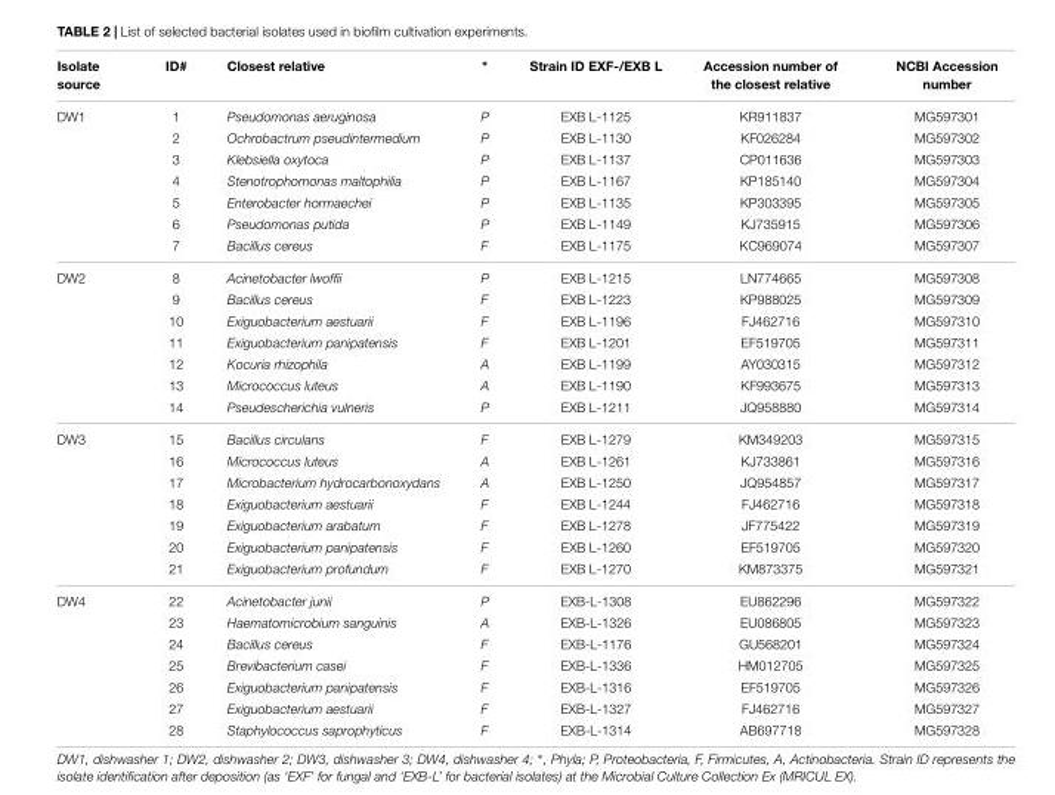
<table><thead><tr><td>Isolate source</td><td>ID#</td><td>Closest relative</td><td>∗</td><td>Strain ID EXF-/EXB L</td><td>Accession number of the closest relative</td><td>NCBI Accession number</td></tr></thead><tbody><tr><td rowspan="7">DW1</td><td>1</td><td>Pseudomonas aeruginosa</td><td>P</td><td>EXB L-1125</td><td>KR911837</td><td>MG597301</td></tr><tr><td>2</td><td>Ochrobactrum pseudintermedium</td><td>P</td><td>EXB L-1130</td><td>KF026284</td><td>MG597302</td></tr><tr><td>3</td><td>Klebsiella oxytoca</td><td>P</td><td>EXB L-1137</td><td>CP011636</td><td>MG597303</td></tr><tr><td>4</td><td>Stenotrophomonas maltophilia</td><td>P</td><td>EXB L-1167</td><td>KP185140</td><td>MG597304</td></tr><tr><td>5</td><td>Enterobacter hormaechei</td><td>P</td><td>EXB L-1135</td><td>KP303395</td><td>MG597305</td></tr><tr><td>6</td><td>Pseudomonas putida</td><td>P</td><td>EXB L-1149</td><td>KJ735915</td><td>MG597306</td></tr><tr><td>7</td><td>Bacillus cereus</td><td>F</td><td>EXB L-1175</td><td>KC969074</td><td>MG597307</td></tr><tr><td rowspan="7">DW2</td><td>8</td><td>Acinetobacter lwoffii</td><td>P</td><td>EXB L-1215</td><td>LN774665</td><td>MG597308</td></tr><tr><td>9</td><td>Bacillus cereus</td><td>F</td><td>EXB L-1223</td><td>KP988025</td><td>MG597309</td></tr><tr><td>10</td><td>Exiguobacterium aestuarii</td><td>F</td><td>EXB L-1196</td><td>FJ462716</td><td>MG597310</td></tr><tr><td>11</td><td>Exiguobacterium panipatensis</td><td>F</td><td>EXB L-1201</td><td>EF519705</td><td>MG597311</td></tr><tr><td>12</td><td>Kocuria rhizophila</td><td>A</td><td>EXB L-1199</td><td>AY030315</td><td>MG597312</td></tr><tr><td>13</td><td>Micrococcus luteus</td><td>A</td><td>EXB L-1190</td><td>KF993675</td><td>MG597313</td></tr><tr><td>14</td><td>Pseudescherichia vulneris</td><td>P</td><td>EXB L-1211</td><td>JQ958880</td><td>MG597314</td></tr><tr><td rowspan="7">DW3</td><td>15</td><td>Bacillus circulans</td><td>F</td><td>EXB L-1279</td><td>KM349203</td><td>MG597315</td></tr><tr><td>16</td><td>Micrococcus luteus</td><td>A</td><td>EXB L-1261</td><td>KJ733861</td><td>MG597316</td></tr><tr><td>17</td><td>Microbacterium hydrocarbonoxydans</td><td>A</td><td>EXB L-1250</td><td>JQ954857</td><td>MG597317</td></tr><tr><td>18</td><td>Exiguobacterium aestuarii</td><td>F</td><td>EXB L-1244</td><td>FJ462716</td><td>MG597318</td></tr><tr><td>19</td><td>Exiguobacterium arabatum</td><td>F</td><td>EXB L-1278</td><td>JF775422</td><td>MG597319</td></tr><tr><td>20</td><td>Exiguobacterium panipatensis</td><td>F</td><td>EXB L-1260</td><td>EF519705</td><td>MG597320</td></tr><tr><td>21</td><td>Exiguobacterium profundum</td><td>F</td><td>EXB L-1270</td><td>KM873375</td><td>MG597321</td></tr><tr><td rowspan="7">DW4</td><td>22</td><td>Acinetobacter junii</td><td>P</td><td>EXB-L-1308</td><td>EU862296</td><td>MG597322</td></tr><tr><td>23</td><td>Haematomicrobium sanguinis</td><td>A</td><td>EXB-L-1326</td><td>EU086805</td><td>MG597323</td></tr><tr><td>24</td><td>Bacillus cereus</td><td>F</td><td>EXB-L-1176</td><td>GU568201</td><td>MG597324</td></tr><tr><td>25</td><td>Brevibacterium casei</td><td>F</td><td>EXB-L-1336</td><td>HM012705</td><td>MG597325</td></tr><tr><td>26</td><td>Exiguobacterium panipatensis</td><td>F</td><td>EXB-L-1316</td><td>EF519705</td><td>MG597326</td></tr><tr><td>27</td><td>Exiguobacterium aestuarii</td><td>F</td><td>EXB-L-1327</td><td>FJ462716</td><td>MG597327</td></tr><tr><td>28</td><td>Staphylococcus saprophyticus</td><td>F</td><td>EXB-L-1314</td><td>AB697718</td><td>MG597328</td></tr></tbody></table>